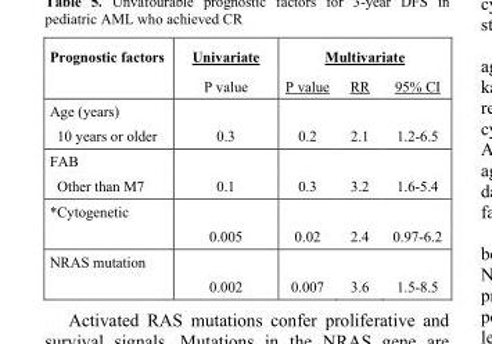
<table><thead><tr><td rowspan="2">Prognostic factors</td><td rowspan="2">Univariate P value</td><td colspan="3">Multivariate</td></tr><tr><td>P value</td><td>RR</td><td>95% CI</td></tr></thead><tbody><tr><td colspan="5">Age (years)</td></tr><tr><td>10 years or older</td><td>0.3</td><td>0.2</td><td>2.1</td><td>1.2-6.5</td></tr><tr><td colspan="5">FAB</td></tr><tr><td>Other than M7</td><td>0.1</td><td>0.3</td><td>3.2</td><td>1.6-5.4</td></tr><tr><td colspan="5">*Cytogenetic</td></tr><tr><td></td><td>0.005</td><td>0.02</td><td>2.4</td><td>0.97-6.2</td></tr><tr><td colspan="5">NRAS mutation</td></tr><tr><td></td><td>0.002</td><td>0.007</td><td>3.6</td><td>1.5-8.5</td></tr></tbody></table>